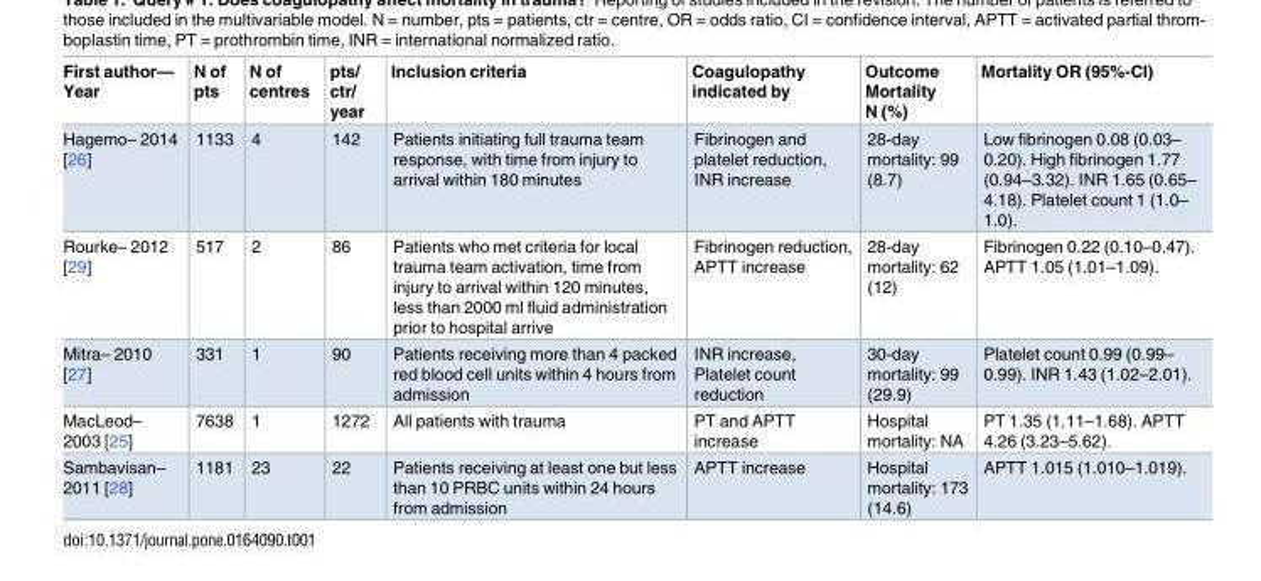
<table><thead><tr><td>First author— Year</td><td>N of pts</td><td>N of centres</td><td>pts/ ctr/ year</td><td>Inclusion criteria</td><td>Coagulopathy indicated by</td><td>Outcome Mortality N (%)</td><td>Mortality OR (95%-CI)</td></tr></thead><tbody><tr><td>Hagemo– 2014 [26]</td><td>1133</td><td>4</td><td>142</td><td>Patients initiating full trauma team response, with time from injury to arrival within 180 minutes</td><td>Fibrinogen and platelet reduction, INR increase</td><td>28-day mortality: 99 (8.7)</td><td>Low fibrinogen 0.08 (0.03– 0.20). High fibrinogen 1.77 (0.94–3.32). INR 1.65 (0.65– 4.18). Platelet count 1 (1.0– 1.0).</td></tr><tr><td>Rourke– 2012 [29]</td><td>517</td><td>2</td><td>86</td><td>Patients who met criteria for local trauma team activation, time from injury to arrival within 120 minutes, less than 2000 ml fluid administration prior to hospital arrive</td><td>Fibrinogen reduction, APTT increase</td><td>28-day mortality: 62 (12)</td><td>Fibrinogen 0.22 (0.10–0.47). APTT 1.05 (1.01–1.09).</td></tr><tr><td>Mitra– 2010 [27]</td><td>331</td><td>1</td><td>90</td><td>Patients receiving more than 4 packed red blood cell units within 4 hours from admission</td><td>INR increase, Platelet count reduction</td><td>30-day mortality: 99 (29.9)</td><td>Platelet count 0.99 (0.99– 0.99). INR 1.43 (1.02–2.01).</td></tr><tr><td>MacLeod– 2003 [25]</td><td>7638</td><td>1</td><td>1272</td><td>All patients with trauma</td><td>PT and APTT increase</td><td>Hospital mortality: NA</td><td>PT 1.35 (1.11–1.68). APTT 4.26 (3.23–5.62).</td></tr><tr><td>Sambavisan– 2011 [28]</td><td>1181</td><td>23</td><td>22</td><td>Patients receiving at least one but less than 10 PRBC units within 24 hours from admission</td><td>APTT increase</td><td>Hospital mortality: 173 (14.6)</td><td>APTT 1.015 (1.010–1.019).</td></tr></tbody></table>